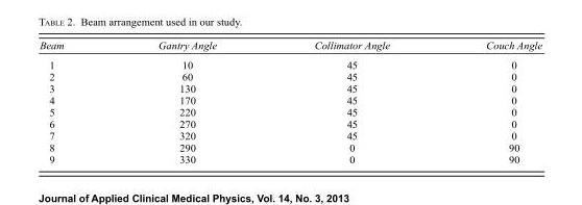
<table><thead><tr><td>Beam</td><td>Gantry Angle</td><td>Collimator Angle</td><td>Couch Angle</td></tr></thead><tbody><tr><td>1</td><td>10</td><td>45</td><td>0</td></tr><tr><td>2</td><td>60</td><td>45</td><td>0</td></tr><tr><td>3</td><td>130</td><td>45</td><td>0</td></tr><tr><td>4</td><td>170</td><td>45</td><td>0</td></tr><tr><td>5</td><td>220</td><td>45</td><td>0</td></tr><tr><td>6</td><td>270</td><td>45</td><td>0</td></tr><tr><td>7</td><td>320</td><td>45</td><td>0</td></tr><tr><td>8</td><td>290</td><td>0</td><td>90</td></tr><tr><td>9</td><td>330</td><td>0</td><td>90</td></tr></tbody></table>